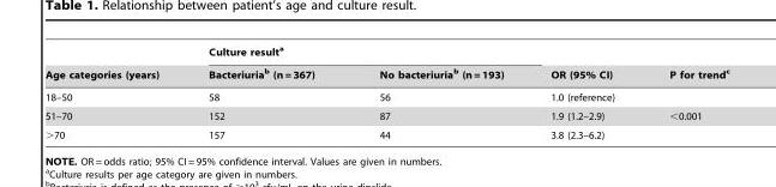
<table><thead><tr><td rowspan="2">Age categories (years)</td><td colspan="2">Culture result<sup>a</sup></td><td rowspan="2">OR (95% CI)</td><td rowspan="2">P for trend<sup>c</sup></td></tr><tr><td>Bacteriuria<sup>b</sup> (n = 367)</td><td>No bacteriuria<sup>b</sup> (n = 193)</td></tr></thead><tbody><tr><td>18–50</td><td>58</td><td>56</td><td>1.0 (reference)</td><td></td></tr><tr><td>51–70</td><td>152</td><td>87</td><td>1.9 (1.2–2.9)</td><td>&lt;0.001</td></tr><tr><td>&gt;70</td><td>157</td><td>44</td><td>3.8 (2.3–6.2)</td><td></td></tr></tbody></table>